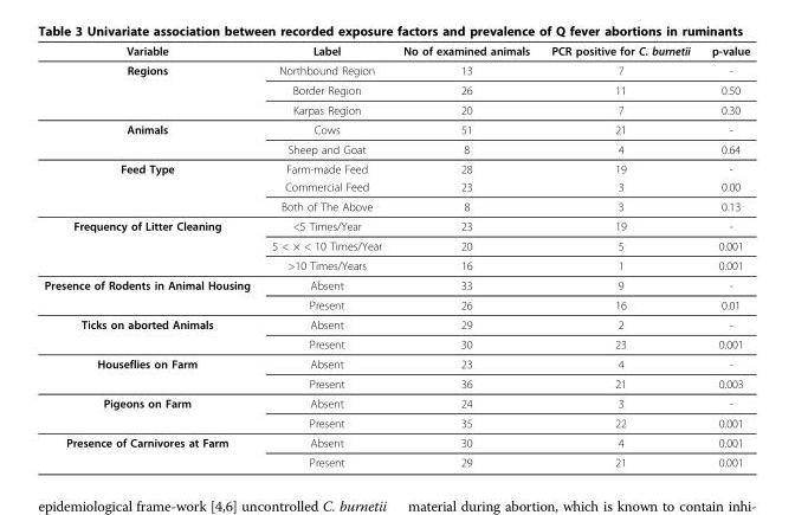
<table><thead><tr><td>Variable</td><td>Label</td><td>No of examined animals</td><td>PCR positive for C. burnetii</td><td>p-value</td></tr></thead><tbody><tr><td rowspan="3">Regions</td><td>Northbound Region</td><td>13</td><td>7</td><td>-</td></tr><tr><td>Border Region</td><td>26</td><td>11</td><td>0.50</td></tr><tr><td>Karpas Region</td><td>20</td><td>7</td><td>0.30</td></tr><tr><td rowspan="2">Animals</td><td>Cows</td><td>51</td><td>21</td><td>-</td></tr><tr><td>Sheep and Goat</td><td>8</td><td>4</td><td>0.64</td></tr><tr><td rowspan="3">Feed Type</td><td>Farm-made Feed</td><td>28</td><td>19</td><td>-</td></tr><tr><td>Commercial Feed</td><td>23</td><td>3</td><td>0.00</td></tr><tr><td>Both of The Above</td><td>8</td><td>3</td><td>0.13</td></tr><tr><td rowspan="3">Frequency of Litter Cleaning</td><td>&lt;5 Times/Year</td><td>23</td><td>19</td><td>-</td></tr><tr><td>5 &lt; × &lt; 10 Times/Year</td><td>20</td><td>5</td><td>0.001</td></tr><tr><td>&gt;10 Times/Years</td><td>16</td><td>1</td><td>0.001</td></tr><tr><td rowspan="2">Presence of Rodents in Animal Housing</td><td>Absent</td><td>33</td><td>9</td><td>-</td></tr><tr><td>Present</td><td>26</td><td>16</td><td>0.01</td></tr><tr><td rowspan="2">Ticks on aborted Animals</td><td>Absent</td><td>29</td><td>2</td><td>-</td></tr><tr><td>Present</td><td>30</td><td>23</td><td>0.001</td></tr><tr><td rowspan="2">Houseflies on Farm</td><td>Absent</td><td>23</td><td>4</td><td>-</td></tr><tr><td>Present</td><td>36</td><td>21</td><td>0.003</td></tr><tr><td rowspan="2">Pigeons on Farm</td><td>Absent</td><td>24</td><td>3</td><td>-</td></tr><tr><td>Present</td><td>35</td><td>22</td><td>0.001</td></tr><tr><td rowspan="2">Presence of Carnivores at Farm</td><td>Absent</td><td>30</td><td>4</td><td>0.001</td></tr><tr><td>Present</td><td>29</td><td>21</td><td>0.001</td></tr></tbody></table>